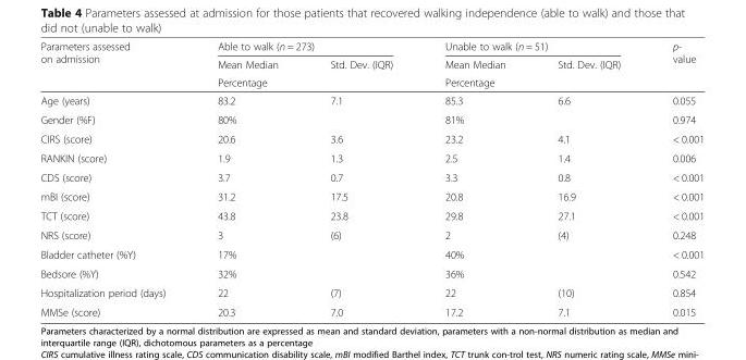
<table><thead><tr><td rowspan="3">Parameters assessed on admission</td><td colspan="2">Able to walk (n = 273)</td><td colspan="2">Unable to walk (n = 51)</td><td rowspan="3">p- value</td></tr><tr><td rowspan="2">Mean Median Percentage</td><td rowspan="2">Std. Dev. (IQR)</td><td rowspan="2">Mean Median Percentage</td><td rowspan="2">Std. Dev. (IQR)</td></tr><tr></tr></thead><tbody><tr><td>Age (years)</td><td>83.2</td><td>7.1</td><td>85.3</td><td>6.6</td><td>0.055</td></tr><tr><td>Gender (%F)</td><td>80%</td><td></td><td>81%</td><td></td><td>0.974</td></tr><tr><td>CIRS (score)</td><td>20.6</td><td>3.6</td><td>23.2</td><td>4.1</td><td>&lt; 0.001</td></tr><tr><td>RANKIN (score)</td><td>1.9</td><td>1.3</td><td>2.5</td><td>1.4</td><td>0.006</td></tr><tr><td>CDS (score)</td><td>3.7</td><td>0.7</td><td>3.3</td><td>0.8</td><td>&lt; 0.001</td></tr><tr><td>mBI (score)</td><td>31.2</td><td>17.5</td><td>20.8</td><td>16.9</td><td>&lt; 0.001</td></tr><tr><td>TCT (score)</td><td>43.8</td><td>23.8</td><td>29.8</td><td>27.1</td><td>&lt; 0.001</td></tr><tr><td>NRS (score)</td><td>3</td><td>(6)</td><td>2</td><td>(4)</td><td>0.248</td></tr><tr><td>Bladder catheter (%Y)</td><td>17%</td><td></td><td>40%</td><td></td><td>&lt; 0.001</td></tr><tr><td>Bedsore (%Y)</td><td>32%</td><td></td><td>36%</td><td></td><td>0.542</td></tr><tr><td>Hospitalization period (days)</td><td>22</td><td>(7)</td><td>22</td><td>(10)</td><td>0.854</td></tr><tr><td>MMSe (score)</td><td>20.3</td><td>7.0</td><td>17.2</td><td>7.1</td><td>0.015</td></tr></tbody></table>